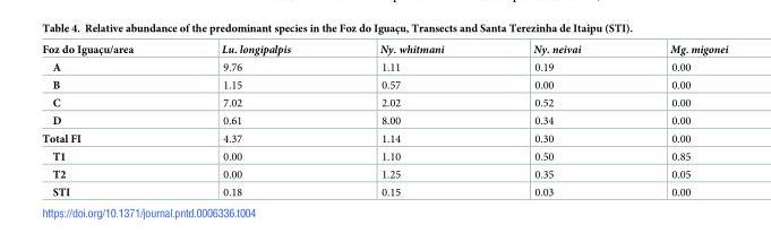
<table><thead><tr><td>Foz do Iguac¸u/area</td><td>Lu. longipalpis</td><td>Ny. whitmani</td><td>Ny. neivai</td><td>Mg. migonei</td></tr></thead><tbody><tr><td>A</td><td>9.76</td><td>1.11</td><td>0.19</td><td>0.00</td></tr><tr><td>B</td><td>1.15</td><td>0.57</td><td>0.00</td><td>0.00</td></tr><tr><td>C</td><td>7.02</td><td>2.02</td><td>0.52</td><td>0.00</td></tr><tr><td>D</td><td>0.61</td><td>8.00</td><td>0.34</td><td>0.00</td></tr><tr><td>Total FI</td><td>4.37</td><td>1.14</td><td>0.30</td><td>0.00</td></tr><tr><td>T1</td><td>0.00</td><td>1.10</td><td>0.50</td><td>0.85</td></tr><tr><td>T2</td><td>0.00</td><td>1.25</td><td>0.35</td><td>0.05</td></tr><tr><td>STI</td><td>0.18</td><td>0.15</td><td>0.03</td><td>0.00</td></tr></tbody></table>